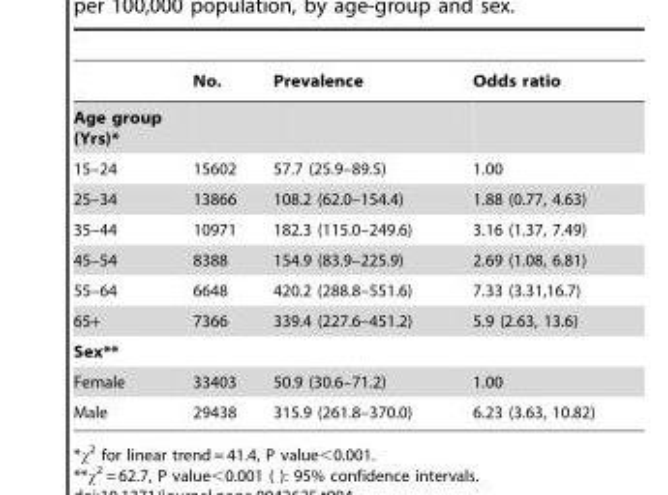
<table><thead><tr><td></td><td>No.</td><td>Prevalence</td><td>Odds ratio</td></tr></thead><tbody><tr><td colspan="4">Age group (Yrs)*</td></tr><tr><td>15–24</td><td>15602</td><td>57.7 (25.9–89.5)</td><td>1.00</td></tr><tr><td>25–34</td><td>13866</td><td>108.2 (62.0–154.4)</td><td>1.88 (0.77, 4.63)</td></tr><tr><td>35–44</td><td>10971</td><td>182.3 (115.0–249.6)</td><td>3.16 (1.37, 7.49)</td></tr><tr><td>45–54</td><td>8388</td><td>154.9 (83.9–225.9)</td><td>2.69 (1.08, 6.81)</td></tr><tr><td>55–64</td><td>6648</td><td>420.2 (288.8–551.6)</td><td>7.33 (3.31,16.7)</td></tr><tr><td>65+</td><td>7366</td><td>339.4 (227.6–451.2)</td><td>5.9 (2.63, 13.6)</td></tr><tr><td colspan="4">Sex**</td></tr><tr><td>Female</td><td>33403</td><td>50.9 (30.6–71.2)</td><td>1.00</td></tr><tr><td>Male</td><td>29438</td><td>315.9 (261.8–370.0)</td><td>6.23 (3.63, 10.82)</td></tr></tbody></table>